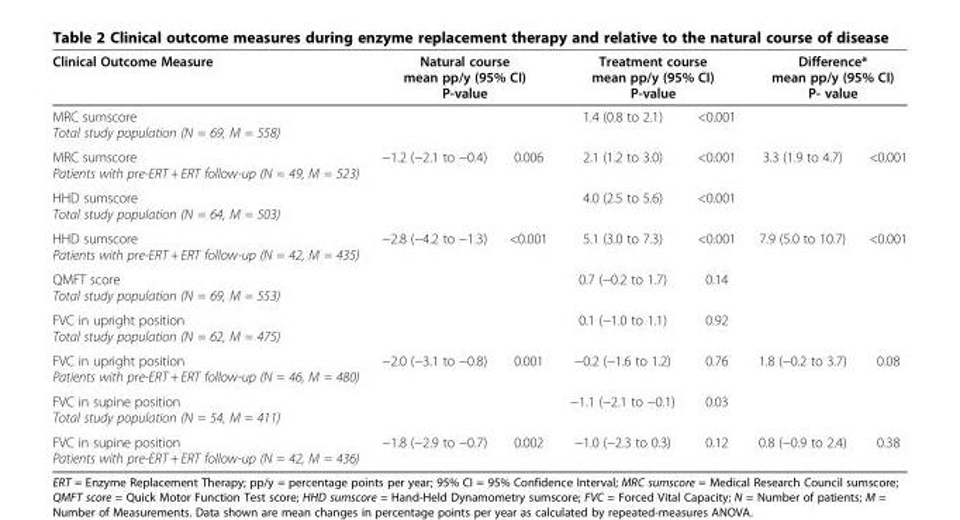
<table><thead><tr><td rowspan="2">Clinical Outcome Measure MRC sumscore Total study population (N = 69, M = 558)</td><td colspan="2">Natural course mean pp/y (95% CI) P-value</td><td colspan="2">Treatment course mean pp/y (95% CI) P-value</td><td colspan="2">Difference* mean pp/y (95% CI) P- value</td></tr><tr><td></td><td></td><td>1.4 (0.8 to 2.1)</td><td>&lt;0.001</td><td></td><td></td></tr></thead><tbody><tr><td>MRC sumscore Patients with pre-ERT + ERT follow-up (N = 49, M = 523)</td><td>−1.2 (−2.1 to −0.4)</td><td>0.006</td><td>2.1 (1.2 to 3.0)</td><td>&lt;0.001</td><td>3.3 (1.9 to 4.7)</td><td>&lt;0.001</td></tr><tr><td>HHD sumscore Total study population (N = 64, M = 503)</td><td></td><td></td><td>4.0 (2.5 to 5.6)</td><td>&lt;0.001</td><td></td><td></td></tr><tr><td>HHD sumscore Patients with pre-ERT + ERT follow-up (N = 42, M = 435)</td><td>−2.8 (−4.2 to −1.3)</td><td>&lt;0.001</td><td>5.1 (3.0 to 7.3)</td><td>&lt;0.001</td><td>7.9 (5.0 to 10.7)</td><td>&lt;0.001</td></tr><tr><td>QMFT score Total study population (N = 69, M = 553)</td><td></td><td></td><td>0.7 (−0.2 to 1.7)</td><td>0.14</td><td></td><td></td></tr><tr><td>FVC in upright position Total study population (N = 62, M = 475)</td><td></td><td></td><td>0.1 (−1.0 to 1.1)</td><td>0.92</td><td></td><td></td></tr><tr><td>FVC in upright position Patients with pre-ERT + ERT follow-up (N = 46, M = 480)</td><td>−2.0 (−3.1 to −0.8)</td><td>0.001</td><td>−0.2 (−1.6 to 1.2)</td><td>0.76</td><td>1.8 (−0.2 to 3.7)</td><td>0.08</td></tr><tr><td>FVC in supine position Total study population (N = 54, M = 411)</td><td></td><td></td><td>−1.1 (−2.1 to −0.1)</td><td>0.03</td><td></td><td></td></tr><tr><td>FVC in supine position Patients with pre-ERT + ERT follow-up (N = 42, M = 436)</td><td>−1.8 (−2.9 to −0.7)</td><td>0.002</td><td>−1.0 (−2.3 to 0.3)</td><td>0.12</td><td>0.8 (−0.9 to 2.4)</td><td>0.38</td></tr></tbody></table>